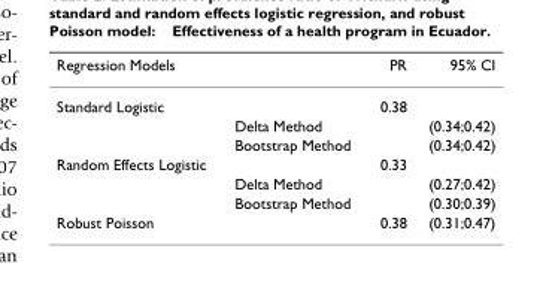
<table><thead><tr><td>Regression Models</td><td></td><td>PR</td><td>95% CI</td></tr></thead><tbody><tr><td rowspan="3">Standard Logistic</td><td></td><td>0.38</td><td></td></tr><tr><td>Delta Method</td><td></td><td>(0.34;0.42)</td></tr><tr><td>Bootstrap Method</td><td></td><td>(0.34;0.42)</td></tr><tr><td rowspan="3">Random Effects Logistic</td><td></td><td>0.33</td><td></td></tr><tr><td>Delta Method</td><td></td><td>(0.27;0.42)</td></tr><tr><td>Bootstrap Method</td><td></td><td>(0.30;0.39)</td></tr><tr><td>Robust Poisson</td><td></td><td>0.38</td><td>(0.31;0.47)</td></tr></tbody></table>